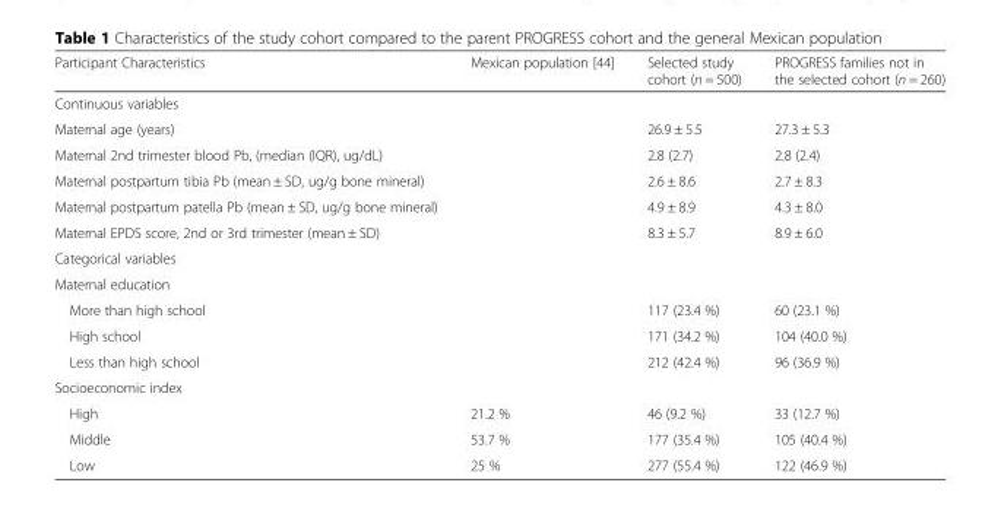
<table><thead><tr><td>Participant Characteristics</td><td>Mexican population [44]</td><td>Selected study cohort (n = 500)</td><td>PROGRESS families not in the selected cohort (n = 260)</td></tr></thead><tbody><tr><td colspan="4">Continuous variables</td></tr><tr><td>Maternal age (years)</td><td></td><td>26.9 ± 5.5</td><td>27.3 ± 5.3</td></tr><tr><td>Maternal 2nd trimester blood Pb, (median (IQR), ug/dL)</td><td></td><td>2.8 (2.7)</td><td>2.8 (2.4)</td></tr><tr><td>Maternal postpartum tibia Pb (mean ± SD, ug/g bone mineral)</td><td></td><td>2.6 ± 8.6</td><td>2.7 ± 8.3</td></tr><tr><td>Maternal postpartum patella Pb (mean ± SD, ug/g bone mineral)</td><td></td><td>4.9 ± 8.9</td><td>4.3 ± 8.0</td></tr><tr><td>Maternal EPDS score, 2nd or 3rd trimester (mean ± SD)</td><td></td><td>8.3 ± 5.7</td><td>8.9 ± 6.0</td></tr><tr><td colspan="4">Categorical variables</td></tr><tr><td colspan="4">Maternal education</td></tr><tr><td>More than high school</td><td></td><td>117 (23.4 %)</td><td>60 (23.1 %)</td></tr><tr><td>High school</td><td></td><td>171 (34.2 %)</td><td>104 (40.0 %)</td></tr><tr><td>Less than high school</td><td></td><td>212 (42.4 %)</td><td>96 (36.9 %)</td></tr><tr><td colspan="4">Socioeconomic index</td></tr><tr><td>High</td><td>21.2 %</td><td>46 (9.2 %)</td><td>33 (12.7 %)</td></tr><tr><td>Middle</td><td>53.7 %</td><td>177 (35.4 %)</td><td>105 (40.4 %)</td></tr><tr><td>Low</td><td>25 %</td><td>277 (55.4 %)</td><td>122 (46.9 %)</td></tr></tbody></table>